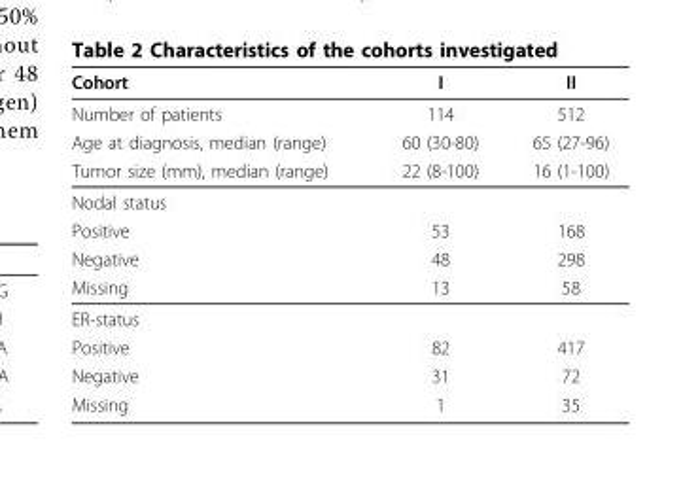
<table><thead><tr><td>Cohort</td><td>I</td><td>II</td></tr></thead><tbody><tr><td>Number of patients</td><td>114</td><td>512</td></tr><tr><td>Age at diagnosis, median (range)</td><td>60 (30-80)</td><td>65 (27-96)</td></tr><tr><td>Tumor size (mm), median (range)</td><td>22 (8-100)</td><td>16 (1-100)</td></tr><tr><td colspan="3">Nodal status</td></tr><tr><td>Positive</td><td>53</td><td>168</td></tr><tr><td>Negative</td><td>48</td><td>298</td></tr><tr><td>Missing</td><td>13</td><td>58</td></tr><tr><td colspan="3">ER-status</td></tr><tr><td>Positive</td><td>82</td><td>417</td></tr><tr><td>Negative</td><td>31</td><td>72</td></tr><tr><td>Missing</td><td>1</td><td>35</td></tr></tbody></table>